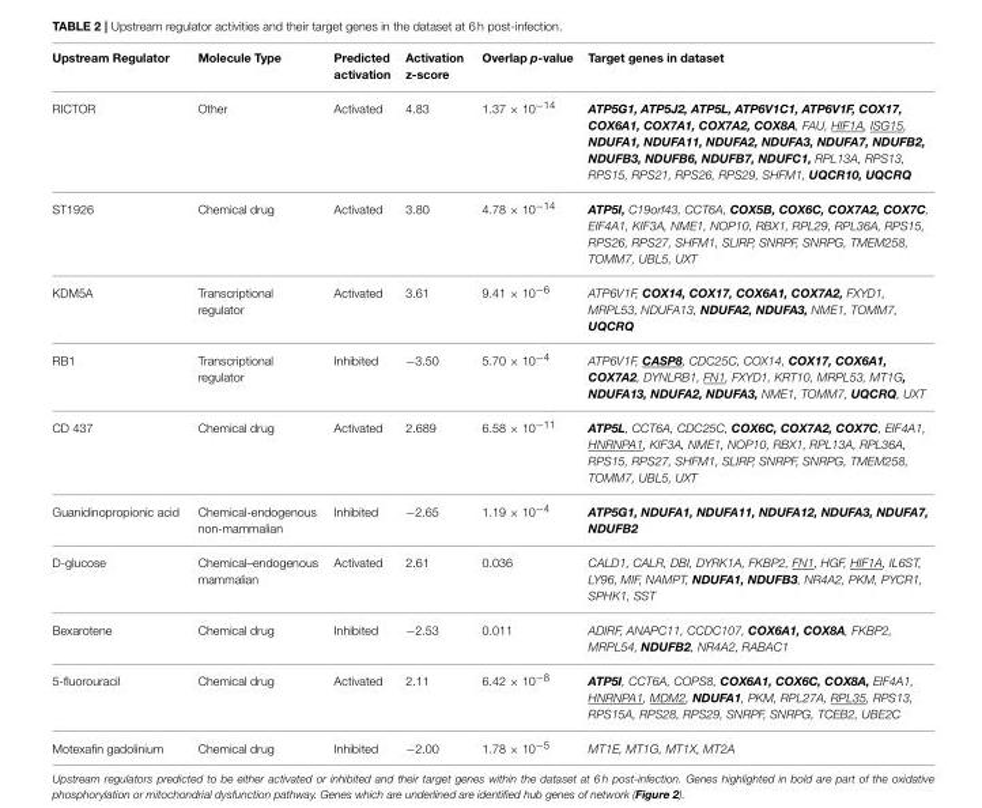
<table><thead><tr><td>Upstream Regulator</td><td>Molecule Type</td><td>Predicted activation</td><td>Activation z-score</td><td>Overlap p-value</td><td>Target genes in dataset</td></tr></thead><tbody><tr><td>RICTOR</td><td>Other</td><td>Activated</td><td>4.83</td><td>1.37 × 10<sup>−14</sup></td><td>ATP5G1, ATP5J2, ATP5L, ATP6V1C1, ATP6V1F, COX17, COX6A1, COX7A1, COX7A2, COX8A, FAU, HIF1A, ISG15, NDUFA1, NDUFA11, NDUFA2, NDUFA3, NDUFA7, NDUFB2, NDUFB3, NDUFB6, NDUFB7, NDUFC1, RPL13A, RPS13, RPS15, RPS21, RPS26, RPS29, SHFM1, UQCR10, UQCRQ</td></tr><tr><td>ST1926</td><td>Chemical drug</td><td>Activated</td><td>3.80</td><td>4.78 × 10<sup>−14</sup></td><td>ATP5I, C19orf43, CCT6A, COX5B, COX6C, COX7A2, COX7C, EIF4A1, KIF3A, NME1, NOP10, RBX1, RPL29, RPL36A, RPS15, RPS26, RPS27, SHFM1, SLIRP, SNRPF, SNRPG, TMEM258, TOMM7, UBL5, UXT</td></tr><tr><td>KDM5A</td><td>Transcriptional regulator</td><td>Activated</td><td>3.61</td><td>9.41 × 10<sup>−6</sup></td><td>ATP6V1F, COX14, COX17, COX6A1, COX7A2, FXYD1, MRPL53, NDUFA13, NDUFA2, NDUFA3, NME1, TOMM7, UQCRQ</td></tr><tr><td>RB1</td><td>Transcriptional regulator</td><td>Inhibited</td><td>−3.50</td><td>5.70 × 10<sup>−4</sup></td><td>ATP6V1F, CASP8, CDC25C, COX14, COX17, COX6A1, COX7A2, DYNLRB1, FN1, FXYD1, KRT10, MRPL53, MT1G, NDUFA13, NDUFA2, NDUFA3, NME1, TOMM7, UQCRQ, UXT</td></tr><tr><td>CD 437</td><td>Chemical drug</td><td>Activated</td><td>2.689</td><td>6.58 × 10<sup>−11</sup></td><td>ATP5L, CCT6A, CDC25C, COX6C, COX7A2, COX7C, EIF4A1, HNRNPA1, KIF3A, NME1, NOP10, RBX1, RPL13A, RPL36A, RPS15, RPS27, SHFM1, SLIRP, SNRPF, SNRPG, TMEM258, TOMM7, UBL5, UXT</td></tr><tr><td>Guanidinopropionic acid</td><td>Chemical-endogenous non-mammalian</td><td>Inhibited</td><td>−2.65</td><td>1.19 × 10<sup>−4</sup></td><td>ATP5G1, NDUFA1, NDUFA11, NDUFA12, NDUFA3, NDUFA7, NDUFB2</td></tr><tr><td>D-glucose</td><td>Chemical–endogenous mammalian</td><td>Activated</td><td>2.61</td><td>0.036</td><td>CALD1, CALR, DBI, DYRK1A, FKBP2, FN1, HGF, HIF1A, IL6ST, LY96, MIF, NAMPT, NDUFA1, NDUFB3, NR4A2, PKM, PYCR1, SPHK1, SST</td></tr><tr><td>Bexarotene</td><td>Chemical drug</td><td>Inhibited</td><td>−2.53</td><td>0.011</td><td>ADIRF, ANAPC11, CCDC107, COX6A1, COX8A, FKBP2, MRPL54, NDUFB2, NR4A2, RABAC1</td></tr><tr><td>5-fluorouracil</td><td>Chemical drug</td><td>Activated</td><td>2.11</td><td>6.42 × 10<sup>−8</sup></td><td>ATP5I, CCT6A, COPS8, COX6A1, COX6C, COX8A, EIF4A1, HNRNPA1, MDM2, NDUFA1, PKM, RPL27A, RPL35, RPS13, RPS15A, RPS28, RPS29, SNRPF, SNRPG, TCEB2, UBE2C</td></tr><tr><td>Motexafin gadolinium</td><td>Chemical drug</td><td>Inhibited</td><td>−2.00</td><td>1.78 × 10<sup>−5</sup></td><td>MT1E, MT1G, MT1X, MT2A</td></tr></tbody></table>